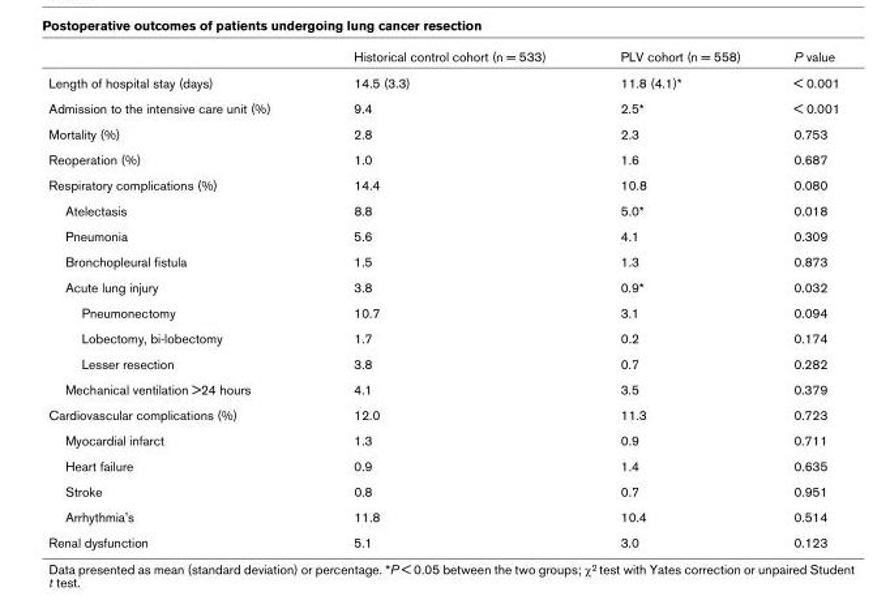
<table><thead><tr><td></td><td>Historical control cohort (n = 533)</td><td>PLV cohort (n = 558)</td><td>P value</td></tr></thead><tbody><tr><td>Length of hospital stay (days)</td><td>14.5 (3.3)</td><td>11.8 (4.1)*</td><td>&lt; 0.001</td></tr><tr><td>Admission to the intensive care unit (%)</td><td>9.4</td><td>2.5*</td><td>&lt; 0.001</td></tr><tr><td>Mortality (%)</td><td>2.8</td><td>2.3</td><td>0.753</td></tr><tr><td>Reoperation (%)</td><td>1.0</td><td>1.6</td><td>0.687</td></tr><tr><td>Respiratory complications (%)</td><td>14.4</td><td>10.8</td><td>0.080</td></tr><tr><td>Atelectasis</td><td>8.8</td><td>5.0*</td><td>0.018</td></tr><tr><td>Pneumonia</td><td>5.6</td><td>4.1</td><td>0.309</td></tr><tr><td>Bronchopleural fistula</td><td>1.5</td><td>1.3</td><td>0.873</td></tr><tr><td>Acute lung injury</td><td>3.8</td><td>0.9*</td><td>0.032</td></tr><tr><td>Pneumonectomy</td><td>10.7</td><td>3.1</td><td>0.094</td></tr><tr><td>Lobectomy, bi-lobectomy</td><td>1.7</td><td>0.2</td><td>0.174</td></tr><tr><td>Lesser resection</td><td>3.8</td><td>0.7</td><td>0.282</td></tr><tr><td>Mechanical ventilation &gt;24 hours</td><td>4.1</td><td>3.5</td><td>0.379</td></tr><tr><td>Cardiovascular complications (%)</td><td>12.0</td><td>11.3</td><td>0.723</td></tr><tr><td>Myocardial infarct</td><td>1.3</td><td>0.9</td><td>0.711</td></tr><tr><td>Heart failure</td><td>0.9</td><td>1.4</td><td>0.635</td></tr><tr><td>Stroke</td><td>0.8</td><td>0.7</td><td>0.951</td></tr><tr><td>Arrhythmia&#x27;s</td><td>11.8</td><td>10.4</td><td>0.514</td></tr><tr><td>Renal dysfunction</td><td>5.1</td><td>3.0</td><td>0.123</td></tr></tbody></table>